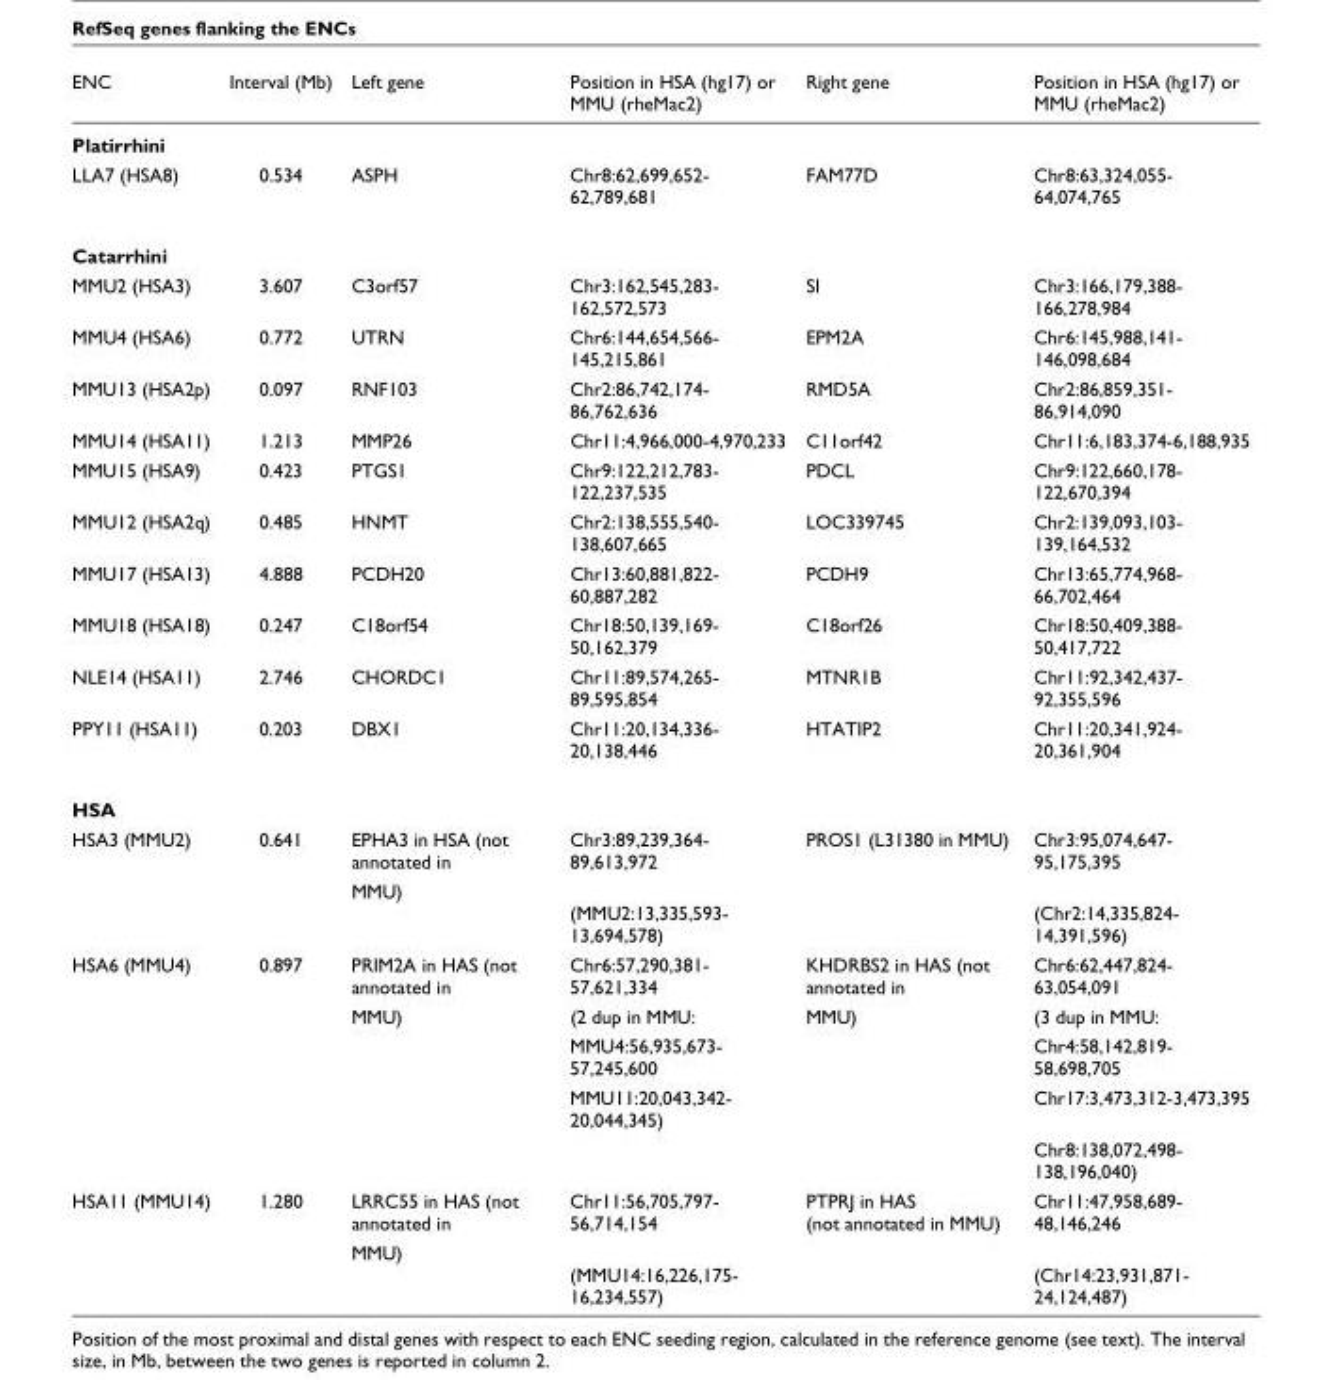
<table><thead><tr><td>ENC</td><td>Interval (Mb)</td><td>Left gene</td><td>Position in HSA (hg17) or MMU (rheMac2)</td><td>Right gene</td><td>Position in HSA (hg17) or MMU (rheMac2)</td></tr></thead><tbody><tr><td colspan="6">Platirrhini</td></tr><tr><td>LLA7 (HSA8)</td><td>0.534</td><td>ASPH</td><td>Chr8:62,699,652- 62,789,681</td><td>FAM77D</td><td>Chr8:63,324,055- 64,074,765</td></tr><tr><td colspan="6">Catarrhini</td></tr><tr><td>MMU2 (HSA3)</td><td>3.607</td><td>C3orf57</td><td>Chr3:162,545,283- 162,572,573</td><td>SI</td><td>Chr3:166,179,388- 166,278,984</td></tr><tr><td>MMU4 (HSA6)</td><td>0.772</td><td>UTRN</td><td>Chr6:144,654,566- 145,215,861</td><td>EPM2A</td><td>Chr6:145,988,141- 146,098,684</td></tr><tr><td>MMU13 (HSA2p)</td><td>0.097</td><td>RNF103</td><td>Chr2:86,742,174- 86,762,636</td><td>RMD5A</td><td>Chr2:86,859,351- 86,914,090</td></tr><tr><td>MMU14 (HSA11)</td><td>1.213</td><td>MMP26</td><td>Chr11:4,966,000-4,970,233</td><td>C11orf42</td><td>Chr11:6,183,374-6,188,935</td></tr><tr><td>MMU15 (HSA9)</td><td>0.423</td><td>PTGS1</td><td>Chr9:122,212,783- 122,237,535</td><td>PDCL</td><td>Chr9:122,660,178- 122,670,394</td></tr><tr><td>MMU12 (HSA2q)</td><td>0.485</td><td>HNMT</td><td>Chr2:138,555,540- 138,607,665</td><td>LOC339745</td><td>Chr2:139,093,103- 139,164,532</td></tr><tr><td>MMU17 (HSA13)</td><td>4.888</td><td>PCDH20</td><td>Chr13:60,881,822- 60,887,282</td><td>PCDH9</td><td>Chr13:65,774,968- 66,702,464</td></tr><tr><td>MMU18 (HSA18)</td><td>0.247</td><td>C18orf54</td><td>Chr18:50,139,169- 50,162,379</td><td>C18orf26</td><td>Chr18:50,409,388- 50,417,722</td></tr><tr><td>NLE14 (HSA11)</td><td>2.746</td><td>CHORDC1</td><td>Chr11:89,574,265- 89,595,854</td><td>MTNR1B</td><td>Chr11:92,342,437- 92,355,596</td></tr><tr><td>PPY11 (HSA11)</td><td>0.203</td><td>DBX1</td><td>Chr11:20,134,336- 20,138,446</td><td>HTATIP2</td><td>Chr11:20,341,924- 20,361,904</td></tr><tr><td colspan="6">HSA</td></tr><tr><td rowspan="2">HSA3 (MMU2)</td><td>0.641</td><td>EPHA3 in HSA (not annotated in</td><td>Chr3:89,239,364- 89,613,972</td><td>PROS1 (L31380 in MMU)</td><td>Chr3:95,074,647- 95,175,395</td></tr><tr><td></td><td>MMU)</td><td>(MMU2:13,335,593- 13,694,578)</td><td></td><td>(Chr2:14,335,824- 14,391,596)</td></tr><tr><td rowspan="5">HSA6 (MMU4)</td><td>0.897</td><td>PRIM2A in HAS (not annotated in</td><td>Chr6:57,290,381- 57,621,334</td><td>KHDRBS2 in HAS (not annotated in</td><td>Chr6:62,447,824- 63,054,091</td></tr><tr><td></td><td>MMU)</td><td>(2 dup in MMU:</td><td>MMU)</td><td>(3 dup in MMU:</td></tr><tr><td></td><td></td><td>MMU4:56,935,673- 57,245,600</td><td></td><td>Chr4:58,142,819- 58,698,705</td></tr><tr><td></td><td></td><td>MMU11:20,043,342- 20,044,345)</td><td></td><td>Chr17:3,473,312-3,473,395</td></tr><tr><td></td><td></td><td></td><td></td><td>Chr8:138,072,498- 138,196,040)</td></tr><tr><td rowspan="2">HSA11 (MMU14)</td><td>1.280</td><td>LRRC55 in HAS (not annotated in</td><td>Chr11:56,705,797- 56,714,154</td><td>PTPRJ in HAS (not annotated in MMU)</td><td>Chr11:47,958,689- 48,146,246</td></tr><tr><td></td><td>MMU)</td><td>(MMU14:16,226,175- 16,234,557)</td><td></td><td>(Chr14:23,931,871- 24,124,487)</td></tr></tbody></table>